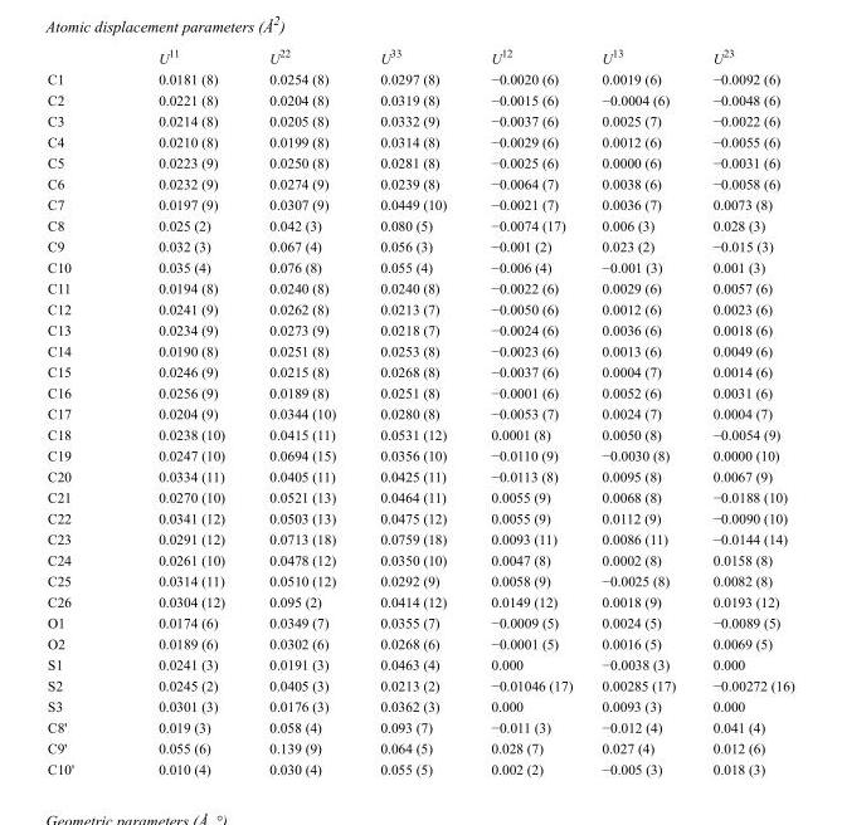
<table><thead><tr><td></td><td>U<sup>11</sup></td><td>U<sup>22</sup></td><td>U<sup>33</sup></td><td>U<sup>12</sup></td><td>U<sup>13</sup></td><td>U<sup>23</sup></td></tr></thead><tbody><tr><td>C1</td><td>0.0181 (8)</td><td>0.0254 (8)</td><td>0.0297 (8)</td><td>−0.0020 (6)</td><td>0.0019 (6)</td><td>−0.0092 (6)</td></tr><tr><td>C2</td><td>0.0221 (8)</td><td>0.0204 (8)</td><td>0.0319 (8)</td><td>−0.0015 (6)</td><td>−0.0004 (6)</td><td>−0.0048 (6)</td></tr><tr><td>C3</td><td>0.0214 (8)</td><td>0.0205 (8)</td><td>0.0332 (9)</td><td>−0.0037 (6)</td><td>0.0025 (7)</td><td>−0.0022 (6)</td></tr><tr><td>C4</td><td>0.0210 (8)</td><td>0.0199 (8)</td><td>0.0314 (8)</td><td>−0.0029 (6)</td><td>0.0012 (6)</td><td>−0.0055 (6)</td></tr><tr><td>C5</td><td>0.0223 (9)</td><td>0.0250 (8)</td><td>0.0281 (8)</td><td>−0.0025 (6)</td><td>0.0000 (6)</td><td>−0.0031 (6)</td></tr><tr><td>C6</td><td>0.0232 (9)</td><td>0.0274 (9)</td><td>0.0239 (8)</td><td>−0.0064 (7)</td><td>0.0038 (6)</td><td>−0.0058 (6)</td></tr><tr><td>C7</td><td>0.0197 (9)</td><td>0.0307 (9)</td><td>0.0449 (10)</td><td>−0.0021 (7)</td><td>0.0036 (7)</td><td>0.0073 (8)</td></tr><tr><td>C8</td><td>0.025 (2)</td><td>0.042 (3)</td><td>0.080 (5)</td><td>−0.0074 (17)</td><td>0.006 (3)</td><td>0.028 (3)</td></tr><tr><td>C9</td><td>0.032 (3)</td><td>0.067 (4)</td><td>0.056 (3)</td><td>−0.001 (2)</td><td>0.023 (2)</td><td>−0.015 (3)</td></tr><tr><td>C10</td><td>0.035 (4)</td><td>0.076 (8)</td><td>0.055 (4)</td><td>−0.006 (4)</td><td>−0.001 (3)</td><td>0.001 (3)</td></tr><tr><td>C11</td><td>0.0194 (8)</td><td>0.0240 (8)</td><td>0.0240 (8)</td><td>−0.0022 (6)</td><td>0.0029 (6)</td><td>0.0057 (6)</td></tr><tr><td>C12</td><td>0.0241 (9)</td><td>0.0262 (8)</td><td>0.0213 (7)</td><td>−0.0050 (6)</td><td>0.0012 (6)</td><td>0.0023 (6)</td></tr><tr><td>C13</td><td>0.0234 (9)</td><td>0.0273 (9)</td><td>0.0218 (7)</td><td>−0.0024 (6)</td><td>0.0036 (6)</td><td>0.0018 (6)</td></tr><tr><td>C14</td><td>0.0190 (8)</td><td>0.0251 (8)</td><td>0.0253 (8)</td><td>−0.0023 (6)</td><td>0.0013 (6)</td><td>0.0049 (6)</td></tr><tr><td>C15</td><td>0.0246 (9)</td><td>0.0215 (8)</td><td>0.0268 (8)</td><td>−0.0037 (6)</td><td>0.0004 (7)</td><td>0.0014 (6)</td></tr><tr><td>C16</td><td>0.0256 (9)</td><td>0.0189 (8)</td><td>0.0251 (8)</td><td>−0.0001 (6)</td><td>0.0052 (6)</td><td>0.0031 (6)</td></tr><tr><td>C17</td><td>0.0204 (9)</td><td>0.0344 (10)</td><td>0.0280 (8)</td><td>−0.0053 (7)</td><td>0.0024 (7)</td><td>0.0004 (7)</td></tr><tr><td>C18</td><td>0.0238 (10)</td><td>0.0415 (11)</td><td>0.0531 (12)</td><td>0.0001 (8)</td><td>0.0050 (8)</td><td>−0.0054 (9)</td></tr><tr><td>C19</td><td>0.0247 (10)</td><td>0.0694 (15)</td><td>0.0356 (10)</td><td>−0.0110 (9)</td><td>−0.0030 (8)</td><td>0.0000 (10)</td></tr><tr><td>C20</td><td>0.0334 (11)</td><td>0.0405 (11)</td><td>0.0425 (11)</td><td>−0.0113 (8)</td><td>0.0095 (8)</td><td>0.0067 (9)</td></tr><tr><td>C21</td><td>0.0270 (10)</td><td>0.0521 (13)</td><td>0.0464 (11)</td><td>0.0055 (9)</td><td>0.0068 (8)</td><td>−0.0188 (10)</td></tr><tr><td>C22</td><td>0.0341 (12)</td><td>0.0503 (13)</td><td>0.0475 (12)</td><td>0.0055 (9)</td><td>0.0112 (9)</td><td>−0.0090 (10)</td></tr><tr><td>C23</td><td>0.0291 (12)</td><td>0.0713 (18)</td><td>0.0759 (18)</td><td>0.0093 (11)</td><td>0.0086 (11)</td><td>−0.0144 (14)</td></tr><tr><td>C24</td><td>0.0261 (10)</td><td>0.0478 (12)</td><td>0.0350 (10)</td><td>0.0047 (8)</td><td>0.0002 (8)</td><td>0.0158 (8)</td></tr><tr><td>C25</td><td>0.0314 (11)</td><td>0.0510 (12)</td><td>0.0292 (9)</td><td>0.0058 (9)</td><td>−0.0025 (8)</td><td>0.0082 (8)</td></tr><tr><td>C26</td><td>0.0304 (12)</td><td>0.095 (2)</td><td>0.0414 (12)</td><td>0.0149 (12)</td><td>0.0018 (9)</td><td>0.0193 (12)</td></tr><tr><td>O1</td><td>0.0174 (6)</td><td>0.0349 (7)</td><td>0.0355 (7)</td><td>−0.0009 (5)</td><td>0.0024 (5)</td><td>−0.0089 (5)</td></tr><tr><td>O2</td><td>0.0189 (6)</td><td>0.0302 (6)</td><td>0.0268 (6)</td><td>−0.0001 (5)</td><td>0.0016 (5)</td><td>0.0069 (5)</td></tr><tr><td>S1</td><td>0.0241 (3)</td><td>0.0191 (3)</td><td>0.0463 (4)</td><td>0.000</td><td>−0.0038 (3)</td><td>0.000</td></tr><tr><td>S2</td><td>0.0245 (2)</td><td>0.0405 (3)</td><td>0.0213 (2)</td><td>−0.01046 (17)</td><td>0.00285 (17)</td><td>−0.00272 (16)</td></tr><tr><td>S3</td><td>0.0301 (3)</td><td>0.0176 (3)</td><td>0.0362 (3)</td><td>0.000</td><td>0.0093 (3)</td><td>0.000</td></tr><tr><td>C8&#x27;</td><td>0.019 (3)</td><td>0.058 (4)</td><td>0.093 (7)</td><td>−0.011 (3)</td><td>−0.012 (4)</td><td>0.041 (4)</td></tr><tr><td>C9&#x27;</td><td>0.055 (6)</td><td>0.139 (9)</td><td>0.064 (5)</td><td>0.028 (7)</td><td>0.027 (4)</td><td>0.012 (6)</td></tr><tr><td>C10&#x27;</td><td>0.010 (4)</td><td>0.030 (4)</td><td>0.055 (5)</td><td>0.002 (2)</td><td>−0.005 (3)</td><td>0.018 (3)</td></tr></tbody></table>